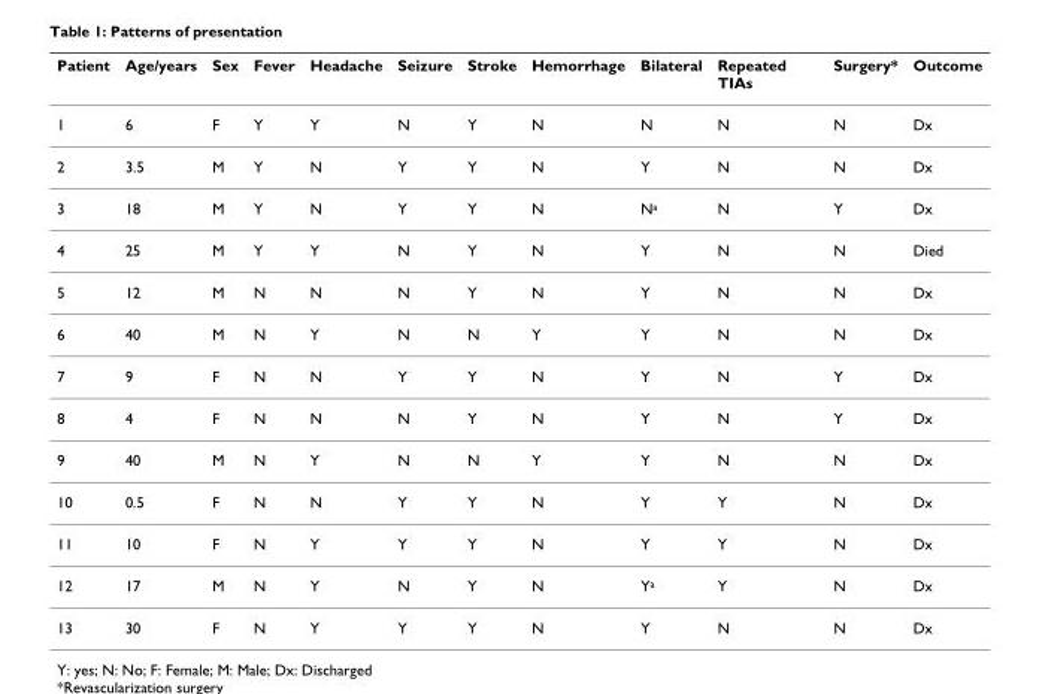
<table><thead><tr><td>Patient</td><td>Age/years</td><td>Sex</td><td>Fever</td><td>Headache</td><td>Seizure</td><td>Stroke</td><td>Hemorrhage</td><td>Bilateral</td><td>Repeated TIAs</td><td>Surgery*</td><td>Outcome</td></tr></thead><tbody><tr><td>1</td><td>6</td><td>F</td><td>Y</td><td>Y</td><td>N</td><td>Y</td><td>N</td><td>N</td><td>N</td><td>N</td><td>Dx</td></tr><tr><td>2</td><td>3.5</td><td>M</td><td>Y</td><td>N</td><td>Y</td><td>Y</td><td>N</td><td>Y</td><td>N</td><td>N</td><td>Dx</td></tr><tr><td>3</td><td>18</td><td>M</td><td>Y</td><td>N</td><td>Y</td><td>Y</td><td>N</td><td>N<sup>a</sup></td><td>N</td><td>Y</td><td>Dx</td></tr><tr><td>4</td><td>25</td><td>M</td><td>Y</td><td>Y</td><td>N</td><td>Y</td><td>N</td><td>Y</td><td>N</td><td>N</td><td>Died</td></tr><tr><td>5</td><td>12</td><td>M</td><td>N</td><td>N</td><td>N</td><td>Y</td><td>N</td><td>Y</td><td>N</td><td>N</td><td>Dx</td></tr><tr><td>6</td><td>40</td><td>M</td><td>N</td><td>Y</td><td>N</td><td>N</td><td>Y</td><td>Y</td><td>N</td><td>N</td><td>Dx</td></tr><tr><td>7</td><td>9</td><td>F</td><td>N</td><td>N</td><td>Y</td><td>Y</td><td>N</td><td>Y</td><td>N</td><td>Y</td><td>Dx</td></tr><tr><td>8</td><td>4</td><td>F</td><td>N</td><td>N</td><td>N</td><td>Y</td><td>N</td><td>Y</td><td>N</td><td>Y</td><td>Dx</td></tr><tr><td>9</td><td>40</td><td>M</td><td>N</td><td>Y</td><td>N</td><td>N</td><td>Y</td><td>Y</td><td>N</td><td>N</td><td>Dx</td></tr><tr><td>10</td><td>0.5</td><td>F</td><td>N</td><td>N</td><td>Y</td><td>Y</td><td>N</td><td>Y</td><td>Y</td><td>N</td><td>Dx</td></tr><tr><td>11</td><td>10</td><td>F</td><td>N</td><td>Y</td><td>Y</td><td>Y</td><td>N</td><td>Y</td><td>Y</td><td>N</td><td>Dx</td></tr><tr><td>12</td><td>17</td><td>M</td><td>N</td><td>Y</td><td>N</td><td>Y</td><td>N</td><td>Y<sup>a</sup></td><td>Y</td><td>N</td><td>Dx</td></tr><tr><td>13</td><td>30</td><td>F</td><td>N</td><td>Y</td><td>Y</td><td>Y</td><td>N</td><td>Y</td><td>N</td><td>N</td><td>Dx</td></tr></tbody></table>